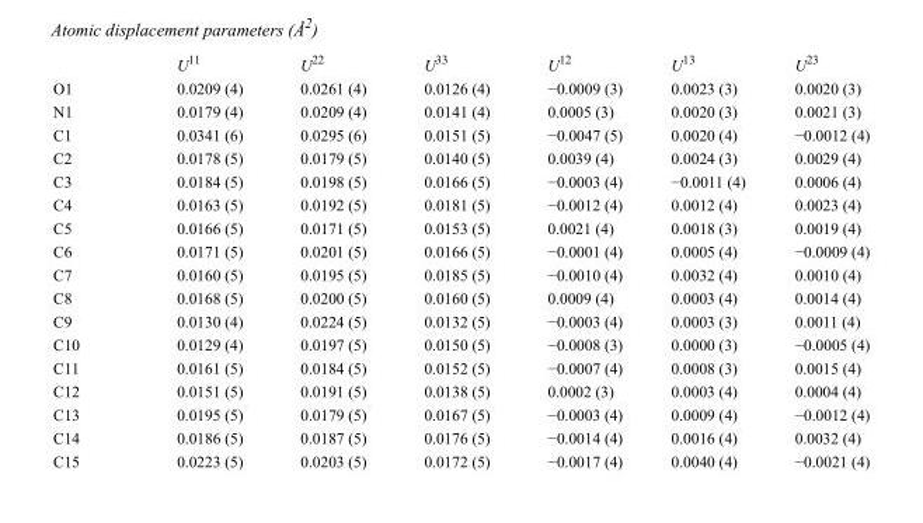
<table><thead><tr><td></td><td>U<sup>11</sup></td><td>U<sup>22</sup></td><td>U<sup>33</sup></td><td>U<sup>12</sup></td><td>U<sup>13</sup></td><td>U<sup>23</sup></td></tr></thead><tbody><tr><td>O1</td><td>0.0209 (4)</td><td>0.0261 (4)</td><td>0.0126 (4)</td><td>−0.0009 (3)</td><td>0.0023 (3)</td><td>0.0020 (3)</td></tr><tr><td>N1</td><td>0.0179 (4)</td><td>0.0209 (4)</td><td>0.0141 (4)</td><td>0.0005 (3)</td><td>0.0020 (3)</td><td>0.0021 (3)</td></tr><tr><td>C1</td><td>0.0341 (6)</td><td>0.0295 (6)</td><td>0.0151 (5)</td><td>−0.0047 (5)</td><td>0.0020 (4)</td><td>−0.0012 (4)</td></tr><tr><td>C2</td><td>0.0178 (5)</td><td>0.0179 (5)</td><td>0.0140 (5)</td><td>0.0039 (4)</td><td>0.0024 (3)</td><td>0.0029 (4)</td></tr><tr><td>C3</td><td>0.0184 (5)</td><td>0.0198 (5)</td><td>0.0166 (5)</td><td>−0.0003 (4)</td><td>−0.0011 (4)</td><td>0.0006 (4)</td></tr><tr><td>C4</td><td>0.0163 (5)</td><td>0.0192 (5)</td><td>0.0181 (5)</td><td>−0.0012 (4)</td><td>0.0012 (4)</td><td>0.0023 (4)</td></tr><tr><td>C5</td><td>0.0166 (5)</td><td>0.0171 (5)</td><td>0.0153 (5)</td><td>0.0021 (4)</td><td>0.0018 (3)</td><td>0.0019 (4)</td></tr><tr><td>C6</td><td>0.0171 (5)</td><td>0.0201 (5)</td><td>0.0166 (5)</td><td>−0.0001 (4)</td><td>0.0005 (4)</td><td>−0.0009 (4)</td></tr><tr><td>C7</td><td>0.0160 (5)</td><td>0.0195 (5)</td><td>0.0185 (5)</td><td>−0.0010 (4)</td><td>0.0032 (4)</td><td>0.0010 (4)</td></tr><tr><td>C8</td><td>0.0168 (5)</td><td>0.0200 (5)</td><td>0.0160 (5)</td><td>0.0009 (4)</td><td>0.0003 (4)</td><td>0.0014 (4)</td></tr><tr><td>C9</td><td>0.0130 (4)</td><td>0.0224 (5)</td><td>0.0132 (5)</td><td>−0.0003 (4)</td><td>0.0003 (3)</td><td>0.0011 (4)</td></tr><tr><td>C10</td><td>0.0129 (4)</td><td>0.0197 (5)</td><td>0.0150 (5)</td><td>−0.0008 (3)</td><td>0.0000 (3)</td><td>−0.0005 (4)</td></tr><tr><td>C11</td><td>0.0161 (5)</td><td>0.0184 (5)</td><td>0.0152 (5)</td><td>−0.0007 (4)</td><td>0.0008 (3)</td><td>0.0015 (4)</td></tr><tr><td>C12</td><td>0.0151 (5)</td><td>0.0191 (5)</td><td>0.0138 (5)</td><td>0.0002 (3)</td><td>0.0003 (4)</td><td>0.0004 (4)</td></tr><tr><td>C13</td><td>0.0195 (5)</td><td>0.0179 (5)</td><td>0.0167 (5)</td><td>−0.0003 (4)</td><td>0.0009 (4)</td><td>−0.0012 (4)</td></tr><tr><td>C14</td><td>0.0186 (5)</td><td>0.0187 (5)</td><td>0.0176 (5)</td><td>−0.0014 (4)</td><td>0.0016 (4)</td><td>0.0032 (4)</td></tr><tr><td>C15</td><td>0.0223 (5)</td><td>0.0203 (5)</td><td>0.0172 (5)</td><td>−0.0017 (4)</td><td>0.0040 (4)</td><td>−0.0021 (4)</td></tr></tbody></table>